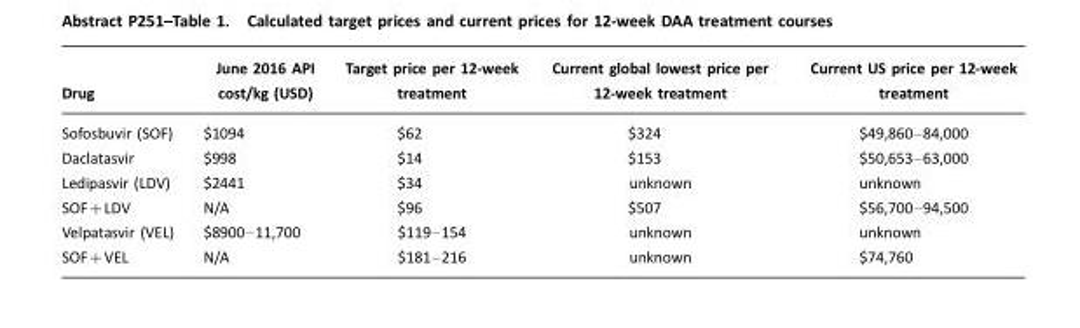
<table><thead><tr><td>Drug</td><td>June 2016 API cost/kg (USD)</td><td>Target price per 12-week treatment</td><td>Current global lowest price per 12-week treatment</td><td>Current US price per 12-week treatment</td></tr></thead><tbody><tr><td>Sofosbuvir (SOF)</td><td>$1094</td><td>$62</td><td>$324</td><td>$49,860–84,000</td></tr><tr><td>Daclatasvir</td><td>$998</td><td>$14</td><td>$153</td><td>$50,653–63,000</td></tr><tr><td>Ledipasvir (LDV)</td><td>$2441</td><td>$34</td><td>unknown</td><td>unknown</td></tr><tr><td>SOF+LDV</td><td>N/A</td><td>$96</td><td>$507</td><td>$56,700–94,500</td></tr><tr><td>Velpatasvir (VEL)</td><td>$8900–11,700</td><td>$119–154</td><td>unknown</td><td>unknown</td></tr><tr><td>SOF+VEL</td><td>N/A</td><td>$181–216</td><td>unknown</td><td>$74,760</td></tr></tbody></table>